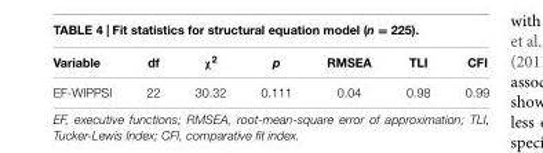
<table><thead><tr><td>Variable</td><td>df</td><td>χ<sup>2</sup></td><td>p</td><td>RMSEA</td><td>TLI</td><td>CFI</td></tr></thead><tbody><tr><td>EF-WIPPSI</td><td>22</td><td>30.32</td><td>0.111</td><td>0.04</td><td>0.98</td><td>0.99</td></tr></tbody></table>